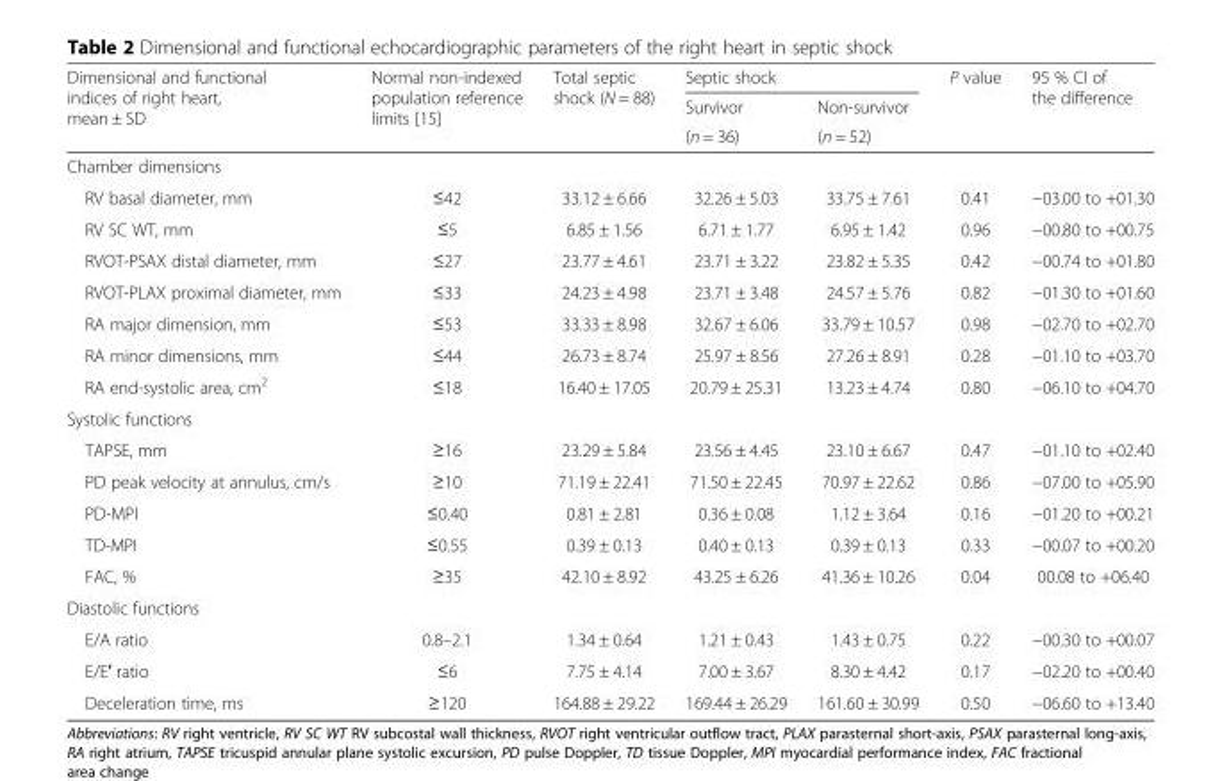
<table><thead><tr><td rowspan="3">Dimensional and functional indices of right heart, mean ± SD</td><td rowspan="3">Normal non-indexed population reference limits [15]</td><td rowspan="3">Total septic shock (N = 88)</td><td colspan="2">Septic shock</td><td rowspan="3">P value</td><td rowspan="3">95 % CI of the difference</td></tr><tr><td rowspan="2">Survivor (n = 36)</td><td rowspan="2">Non-survivor (n = 52)</td></tr><tr></tr></thead><tbody><tr><td colspan="7">Chamber dimensions</td></tr><tr><td>RV basal diameter, mm</td><td>≤42</td><td>33.12 ± 6.66</td><td>32.26 ± 5.03</td><td>33.75 ± 7.61</td><td>0.41</td><td>−03.00 to +01.30</td></tr><tr><td>RV SC WT, mm</td><td>≤5</td><td>6.85 ± 1.56</td><td>6.71 ± 1.77</td><td>6.95 ± 1.42</td><td>0.96</td><td>−00.80 to +00.75</td></tr><tr><td>RVOT-PSAX distal diameter, mm</td><td>≤27</td><td>23.77 ± 4.61</td><td>23.71 ± 3.22</td><td>23.82 ± 5.35</td><td>0.42</td><td>−00.74 to +01.80</td></tr><tr><td>RVOT-PLAX proximal diameter, mm</td><td>≤33</td><td>24.23 ± 4.98</td><td>23.71 ± 3.48</td><td>24.57 ± 5.76</td><td>0.82</td><td>−01.30 to +01.60</td></tr><tr><td>RA major dimension, mm</td><td>≤53</td><td>33.33 ± 8.98</td><td>32.67 ± 6.06</td><td>33.79 ± 10.57</td><td>0.98</td><td>−02.70 to +02.70</td></tr><tr><td>RA minor dimensions, mm</td><td>≤44</td><td>26.73 ± 8.74</td><td>25.97 ± 8.56</td><td>27.26 ± 8.91</td><td>0.28</td><td>−01.10 to +03.70</td></tr><tr><td>RA end-systolic area, cm<sup>2</sup></td><td>≤18</td><td>16.40 ± 17.05</td><td>20.79 ± 25.31</td><td>13.23 ± 4.74</td><td>0.80</td><td>−06.10 to +04.70</td></tr><tr><td colspan="7">Systolic functions</td></tr><tr><td>TAPSE, mm</td><td>≥16</td><td>23.29 ± 5.84</td><td>23.56 ± 4.45</td><td>23.10 ± 6.67</td><td>0.47</td><td>−01.10 to +02.40</td></tr><tr><td>PD peak velocity at annulus, cm/s</td><td>≥10</td><td>71.19 ± 22.41</td><td>71.50 ± 22.45</td><td>70.97 ± 22.62</td><td>0.86</td><td>−07.00 to +05.90</td></tr><tr><td>PD-MPI</td><td>≤0.40</td><td>0.81 ± 2.81</td><td>0.36 ± 0.08</td><td>1.12 ± 3.64</td><td>0.16</td><td>−01.20 to +00.21</td></tr><tr><td>TD-MPI</td><td>≤0.55</td><td>0.39 ± 0.13</td><td>0.40 ± 0.13</td><td>0.39 ± 0.13</td><td>0.33</td><td>−00.07 to +00.20</td></tr><tr><td>FAC, %</td><td>≥35</td><td>42.10 ± 8.92</td><td>43.25 ± 6.26</td><td>41.36 ± 10.26</td><td>0.04</td><td>00.08 to +06.40</td></tr><tr><td colspan="7">Diastolic functions</td></tr><tr><td>E/A ratio</td><td>0.8–2.1</td><td>1.34 ± 0.64</td><td>1.21 ± 0.43</td><td>1.43 ± 0.75</td><td>0.22</td><td>−00.30 to +00.07</td></tr><tr><td>E/E′ ratio</td><td>≤6</td><td>7.75 ± 4.14</td><td>7.00 ± 3.67</td><td>8.30 ± 4.42</td><td>0.17</td><td>−02.20 to +00.40</td></tr><tr><td>Deceleration time, ms</td><td>≥120</td><td>164.88 ± 29.22</td><td>169.44 ± 26.29</td><td>161.60 ± 30.99</td><td>0.50</td><td>−06.60 to +13.40</td></tr></tbody></table>